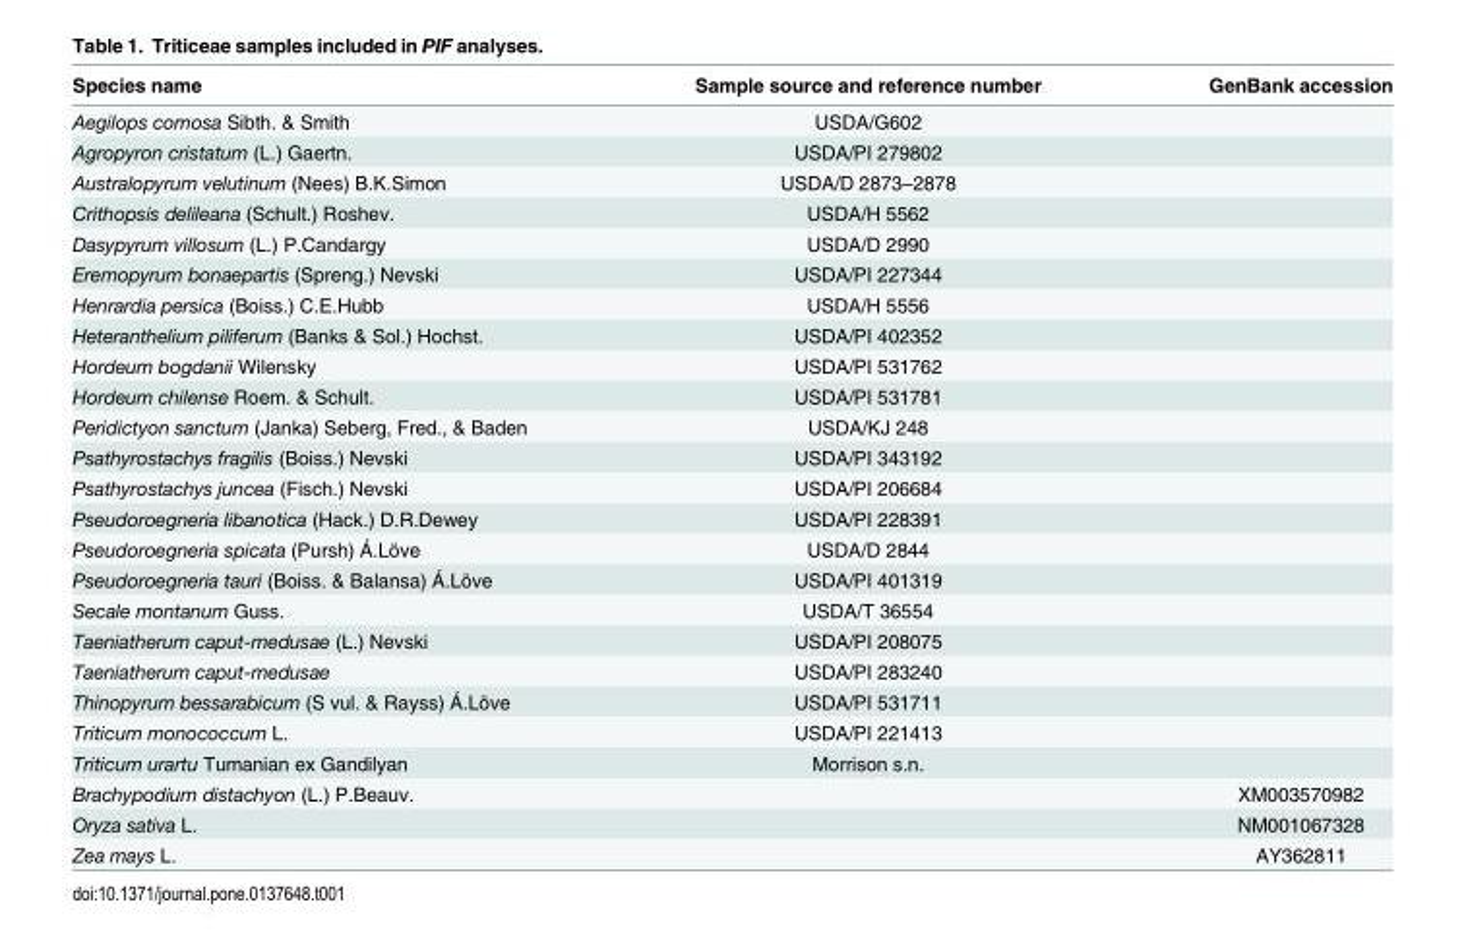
<table><thead><tr><td>Species name</td><td>Sample source and reference number</td><td>GenBank accession</td></tr></thead><tbody><tr><td>Aegilops comosa Sibth. &amp; Smith</td><td>USDA/G602</td><td></td></tr><tr><td>Agropyron cristatum (L.) Gaertn.</td><td>USDA/PI 279802</td><td></td></tr><tr><td>Australopyrum velutinum (Nees) B.K.Simon</td><td>USDA/D 2873–2878</td><td></td></tr><tr><td>Crithopsis delileana (Schult.) Roshev.</td><td>USDA/H 5562</td><td></td></tr><tr><td>Dasypyrum villosum (L.) P.Candargy</td><td>USDA/D 2990</td><td></td></tr><tr><td>Eremopyrum bonaepartis (Spreng.) Nevski</td><td>USDA/PI 227344</td><td></td></tr><tr><td>Henrardia persica (Boiss.) C.E.Hubb</td><td>USDA/H 5556</td><td></td></tr><tr><td>Heteranthelium piliferum (Banks &amp; Sol.) Hochst.</td><td>USDA/PI 402352</td><td></td></tr><tr><td>Hordeum bogdanii Wilensky</td><td>USDA/PI 531762</td><td></td></tr><tr><td>Hordeum chilense Roem. &amp; Schult.</td><td>USDA/PI 531781</td><td></td></tr><tr><td>Peridictyon sanctum (Janka) Seberg, Fred., &amp; Baden</td><td>USDA/KJ 248</td><td></td></tr><tr><td>Psathyrostachys fragilis (Boiss.) Nevski</td><td>USDA/PI 343192</td><td></td></tr><tr><td>Psathyrostachys juncea (Fisch.) Nevski</td><td>USDA/PI 206684</td><td></td></tr><tr><td>Pseudoroegneria libanotica (Hack.) D.R.Dewey</td><td>USDA/PI 228391</td><td></td></tr><tr><td>Pseudoroegneria spicata (Pursh) Á.Löve</td><td>USDA/D 2844</td><td></td></tr><tr><td>Pseudoroegneria tauri (Boiss. &amp; Balansa) Á.Löve</td><td>USDA/PI 401319</td><td></td></tr><tr><td>Secale montanum Guss.</td><td>USDA/T 36554</td><td></td></tr><tr><td>Taeniatherum caput-medusae (L.) Nevski</td><td>USDA/PI 208075</td><td></td></tr><tr><td>Taeniatherum caput-medusae</td><td>USDA/PI 283240</td><td></td></tr><tr><td>Thinopyrum bessarabicum (Săvul. &amp; Rayss) Á.Löve</td><td>USDA/PI 531711</td><td></td></tr><tr><td>Triticum monococcum L.</td><td>USDA/PI 221413</td><td></td></tr><tr><td>Triticum urartu Tumanian ex Gandilyan</td><td>Morrison s.n.</td><td></td></tr><tr><td>Brachypodium distachyon (L.) P.Beauv.</td><td></td><td>XM003570982</td></tr><tr><td>Oryza sativa L.</td><td></td><td>NM001067328</td></tr><tr><td>Zea mays L.</td><td></td><td>AY362811</td></tr></tbody></table>